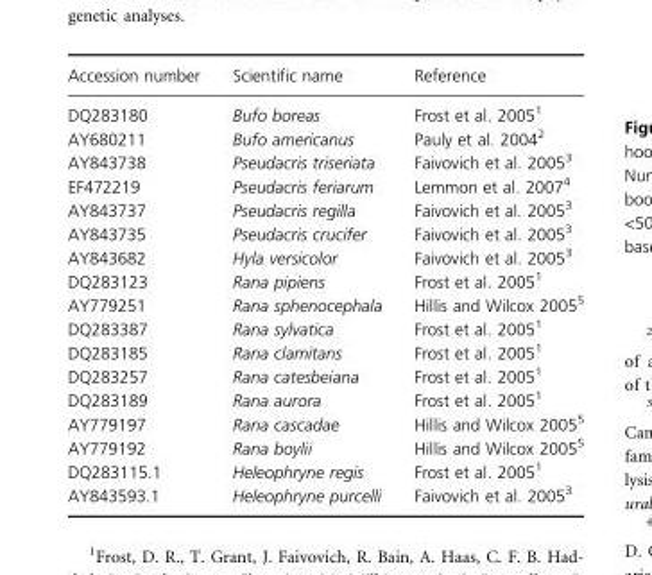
<table><thead><tr><td>Accession number</td><td>Scientific name</td><td>Reference</td></tr></thead><tbody><tr><td>DQ283180</td><td>Bufo boreas</td><td>Frost et al. 2005<sup>1</sup></td></tr><tr><td>AY680211</td><td>Bufo americanus</td><td>Pauly et al. 2004<sup>2</sup></td></tr><tr><td>AY843738</td><td>Pseudacris triseriata</td><td>Faivovich et al. 2005<sup>3</sup></td></tr><tr><td>EF472219</td><td>Pseudacris feriarum</td><td>Lemmon et al. 2007<sup>4</sup></td></tr><tr><td>AY843737</td><td>Pseudacris regilla</td><td>Faivovich et al. 2005<sup>3</sup></td></tr><tr><td>AY843735</td><td>Pseudacris crucifer</td><td>Faivovich et al. 2005<sup>3</sup></td></tr><tr><td>AY843682</td><td>Hyla versicolor</td><td>Faivovich et al. 2005<sup>3</sup></td></tr><tr><td>DQ283123</td><td>Rana pipiens</td><td>Frost et al. 2005<sup>1</sup></td></tr><tr><td>AY779251</td><td>Rana sphenocephala</td><td>Hillis and Wilcox 2005<sup>5</sup></td></tr><tr><td>DQ283387</td><td>Rana sylvatica</td><td>Frost et al. 2005<sup>1</sup></td></tr><tr><td>DQ283185</td><td>Rana clamitans</td><td>Frost et al. 2005<sup>1</sup></td></tr><tr><td>DQ283257</td><td>Rana catesbeiana</td><td>Frost et al. 2005<sup>1</sup></td></tr><tr><td>DQ283189</td><td>Rana aurora</td><td>Frost et al. 2005<sup>1</sup></td></tr><tr><td>AY779197</td><td>Rana cascadae</td><td>Hillis and Wilcox 2005<sup>5</sup></td></tr><tr><td>AY779192</td><td>Rana boylii</td><td>Hillis and Wilcox 2005<sup>5</sup></td></tr><tr><td>DQ283115.1</td><td>Heleophryne regis</td><td>Frost et al. 2005<sup>1</sup></td></tr><tr><td>AY843593.1</td><td>Heleophryne purcelli</td><td>Faivovich et al. 2005<sup>3</sup></td></tr></tbody></table>